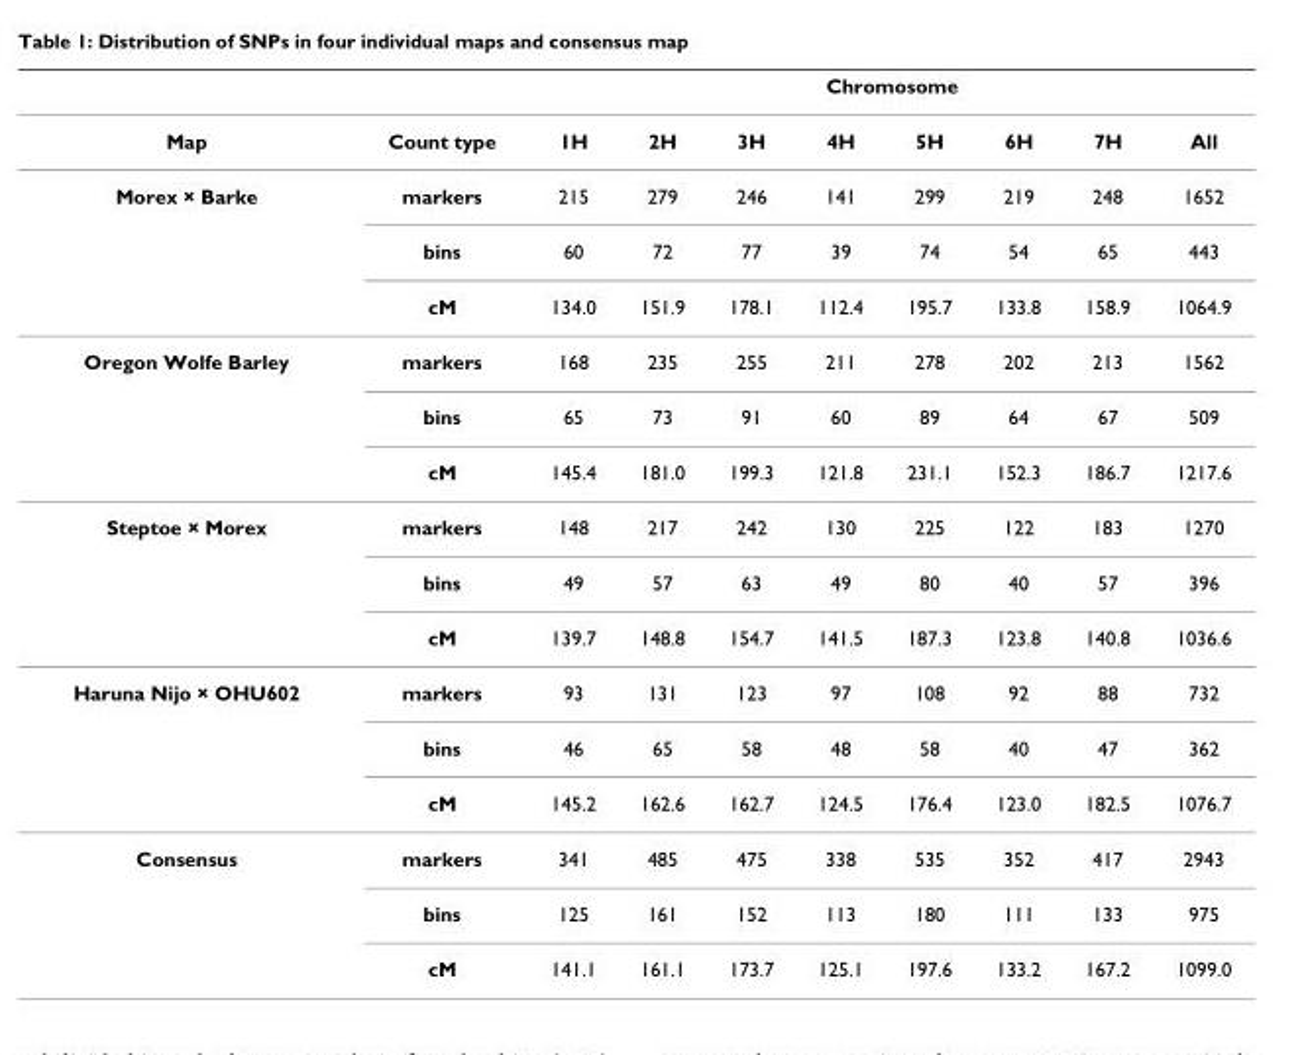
<table><thead><tr><td rowspan="2">Map</td><td rowspan="2">Count type</td><td colspan="8">Chromosome</td></tr><tr><td>1H</td><td>2H</td><td>3H</td><td>4H</td><td>5H</td><td>6H</td><td>7H</td><td>All</td></tr></thead><tbody><tr><td rowspan="3">Morex × Barke</td><td>markers</td><td>215</td><td>279</td><td>246</td><td>141</td><td>299</td><td>219</td><td>248</td><td>1652</td></tr><tr><td>bins</td><td>60</td><td>72</td><td>77</td><td>39</td><td>74</td><td>54</td><td>65</td><td>443</td></tr><tr><td>cM</td><td>134.0</td><td>151.9</td><td>178.1</td><td>112.4</td><td>195.7</td><td>133.8</td><td>158.9</td><td>1064.9</td></tr><tr><td rowspan="3">Oregon Wolfe Barley</td><td>markers</td><td>168</td><td>235</td><td>255</td><td>211</td><td>278</td><td>202</td><td>213</td><td>1562</td></tr><tr><td>bins</td><td>65</td><td>73</td><td>91</td><td>60</td><td>89</td><td>64</td><td>67</td><td>509</td></tr><tr><td>cM</td><td>145.4</td><td>181.0</td><td>199.3</td><td>121.8</td><td>231.1</td><td>152.3</td><td>186.7</td><td>1217.6</td></tr><tr><td rowspan="3">Steptoe × Morex</td><td>markers</td><td>148</td><td>217</td><td>242</td><td>130</td><td>225</td><td>122</td><td>183</td><td>1270</td></tr><tr><td>bins</td><td>49</td><td>57</td><td>63</td><td>49</td><td>80</td><td>40</td><td>57</td><td>396</td></tr><tr><td>cM</td><td>139.7</td><td>148.8</td><td>154.7</td><td>141.5</td><td>187.3</td><td>123.8</td><td>140.8</td><td>1036.6</td></tr><tr><td rowspan="3">Haruna Nijo × OHU602</td><td>markers</td><td>93</td><td>131</td><td>123</td><td>97</td><td>108</td><td>92</td><td>88</td><td>732</td></tr><tr><td>bins</td><td>46</td><td>65</td><td>58</td><td>48</td><td>58</td><td>40</td><td>47</td><td>362</td></tr><tr><td>cM</td><td>145.2</td><td>162.6</td><td>162.7</td><td>124.5</td><td>176.4</td><td>123.0</td><td>182.5</td><td>1076.7</td></tr><tr><td rowspan="3">Consensus</td><td>markers</td><td>341</td><td>485</td><td>475</td><td>338</td><td>535</td><td>352</td><td>417</td><td>2943</td></tr><tr><td>bins</td><td>125</td><td>161</td><td>152</td><td>113</td><td>180</td><td>111</td><td>133</td><td>975</td></tr><tr><td>cM</td><td>141.1</td><td>161.1</td><td>173.7</td><td>125.1</td><td>197.6</td><td>133.2</td><td>167.2</td><td>1099.0</td></tr></tbody></table>